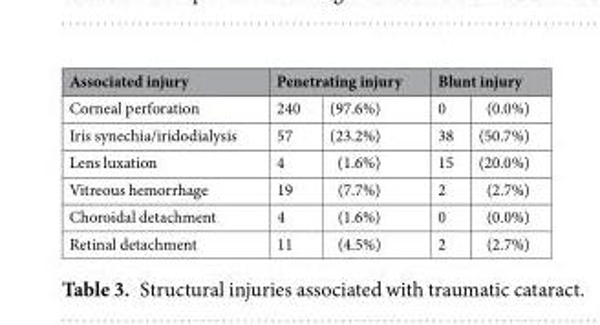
<table><thead><tr><td rowspan="2">Associated injury Corneal perforation</td><td colspan="2">Penetrating injury</td><td colspan="2">Blunt injury</td></tr><tr><td>240</td><td>(97.6%)</td><td>0</td><td>(0.0%)</td></tr></thead><tbody><tr><td>Iris synechia/iridodialysis</td><td>57</td><td>(23.2%)</td><td>38</td><td>(50.7%)</td></tr><tr><td>Lens luxation</td><td>4</td><td>(1.6%)</td><td>15</td><td>(20.0%)</td></tr><tr><td>Vitreous hemorrhage</td><td>19</td><td>(7.7%)</td><td>2</td><td>(2.7%)</td></tr><tr><td>Choroidal detachment</td><td>4</td><td>(1.6%)</td><td>0</td><td>(0.0%)</td></tr><tr><td>Retinal detachment</td><td>11</td><td>(4.5%)</td><td>2</td><td>(2.7%)</td></tr></tbody></table>